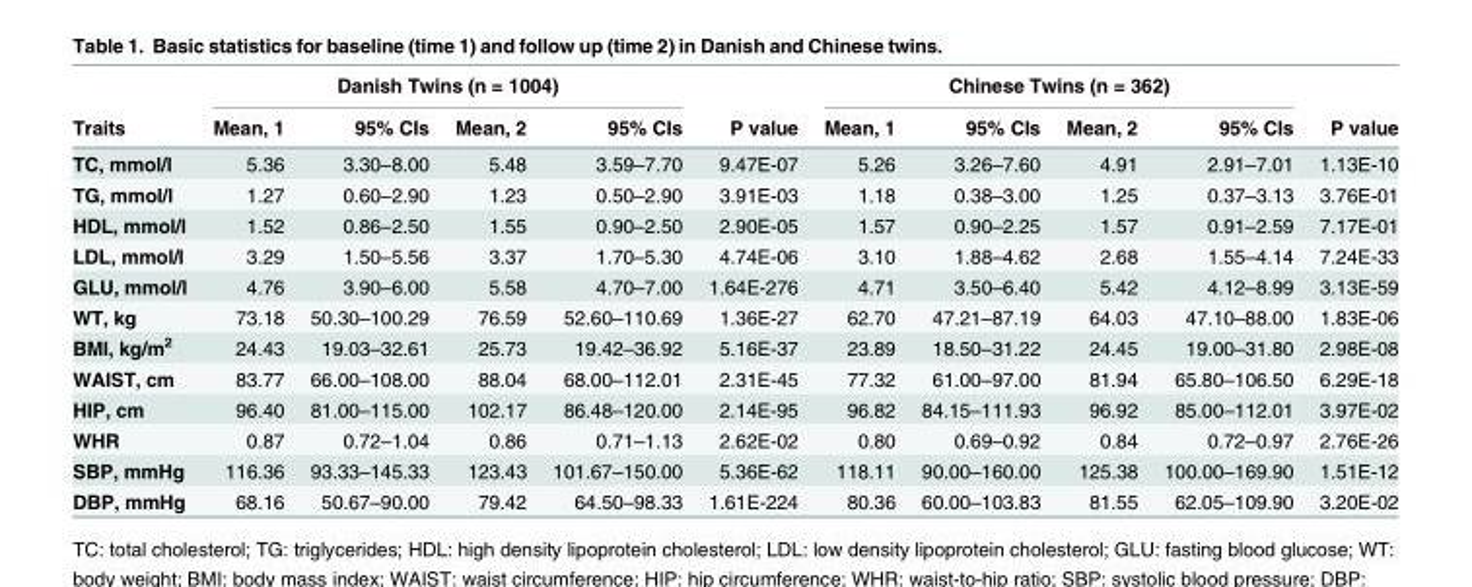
<table><thead><tr><td rowspan="2">Traits</td><td colspan="4">Danish Twins (n = 1004)</td><td rowspan="2">P value</td><td colspan="4">Chinese Twins (n = 362)</td><td rowspan="2">P value</td></tr><tr><td>Mean, 1</td><td>95% CIs</td><td>Mean, 2</td><td>95% CIs</td><td>Mean, 1</td><td>95% CIs</td><td>Mean, 2</td><td>95% CIs</td></tr></thead><tbody><tr><td>TC, mmol/l</td><td>5.36</td><td>3.30–8.00</td><td>5.48</td><td>3.59–7.70</td><td>9.47E-07</td><td>5.26</td><td>3.26–7.60</td><td>4.91</td><td>2.91–7.01</td><td>1.13E-10</td></tr><tr><td>TG, mmol/l</td><td>1.27</td><td>0.60–2.90</td><td>1.23</td><td>0.50–2.90</td><td>3.91E-03</td><td>1.18</td><td>0.38–3.00</td><td>1.25</td><td>0.37–3.13</td><td>3.76E-01</td></tr><tr><td>HDL, mmol/l</td><td>1.52</td><td>0.86–2.50</td><td>1.55</td><td>0.90–2.50</td><td>2.90E-05</td><td>1.57</td><td>0.90–2.25</td><td>1.57</td><td>0.91–2.59</td><td>7.17E-01</td></tr><tr><td>LDL, mmol/l</td><td>3.29</td><td>1.50–5.56</td><td>3.37</td><td>1.70–5.30</td><td>4.74E-06</td><td>3.10</td><td>1.88–4.62</td><td>2.68</td><td>1.55–4.14</td><td>7.24E-33</td></tr><tr><td>GLU, mmol/l</td><td>4.76</td><td>3.90–6.00</td><td>5.58</td><td>4.70–7.00</td><td>1.64E-276</td><td>4.71</td><td>3.50–6.40</td><td>5.42</td><td>4.12–8.99</td><td>3.13E-59</td></tr><tr><td>WT, kg</td><td>73.18</td><td>50.30–100.29</td><td>76.59</td><td>52.60–110.69</td><td>1.36E-27</td><td>62.70</td><td>47.21–87.19</td><td>64.03</td><td>47.10–88.00</td><td>1.83E-06</td></tr><tr><td>BMI, kg/m<sup>2</sup></td><td>24.43</td><td>19.03–32.61</td><td>25.73</td><td>19.42–36.92</td><td>5.16E-37</td><td>23.89</td><td>18.50–31.22</td><td>24.45</td><td>19.00–31.80</td><td>2.98E-08</td></tr><tr><td>WAIST, cm</td><td>83.77</td><td>66.00–108.00</td><td>88.04</td><td>68.00–112.01</td><td>2.31E-45</td><td>77.32</td><td>61.00–97.00</td><td>81.94</td><td>65.80–106.50</td><td>6.29E-18</td></tr><tr><td>HIP, cm</td><td>96.40</td><td>81.00–115.00</td><td>102.17</td><td>86.48–120.00</td><td>2.14E-95</td><td>96.82</td><td>84.15–111.93</td><td>96.92</td><td>85.00–112.01</td><td>3.97E-02</td></tr><tr><td>WHR</td><td>0.87</td><td>0.72–1.04</td><td>0.86</td><td>0.71–1.13</td><td>2.62E-02</td><td>0.80</td><td>0.69–0.92</td><td>0.84</td><td>0.72–0.97</td><td>2.76E-26</td></tr><tr><td>SBP, mmHg</td><td>116.36</td><td>93.33–145.33</td><td>123.43</td><td>101.67–150.00</td><td>5.36E-62</td><td>118.11</td><td>90.00–160.00</td><td>125.38</td><td>100.00–169.90</td><td>1.51E-12</td></tr><tr><td>DBP, mmHg</td><td>68.16</td><td>50.67–90.00</td><td>79.42</td><td>64.50–98.33</td><td>1.61E-224</td><td>80.36</td><td>60.00–103.83</td><td>81.55</td><td>62.05–109.90</td><td>3.20E-02</td></tr></tbody></table>